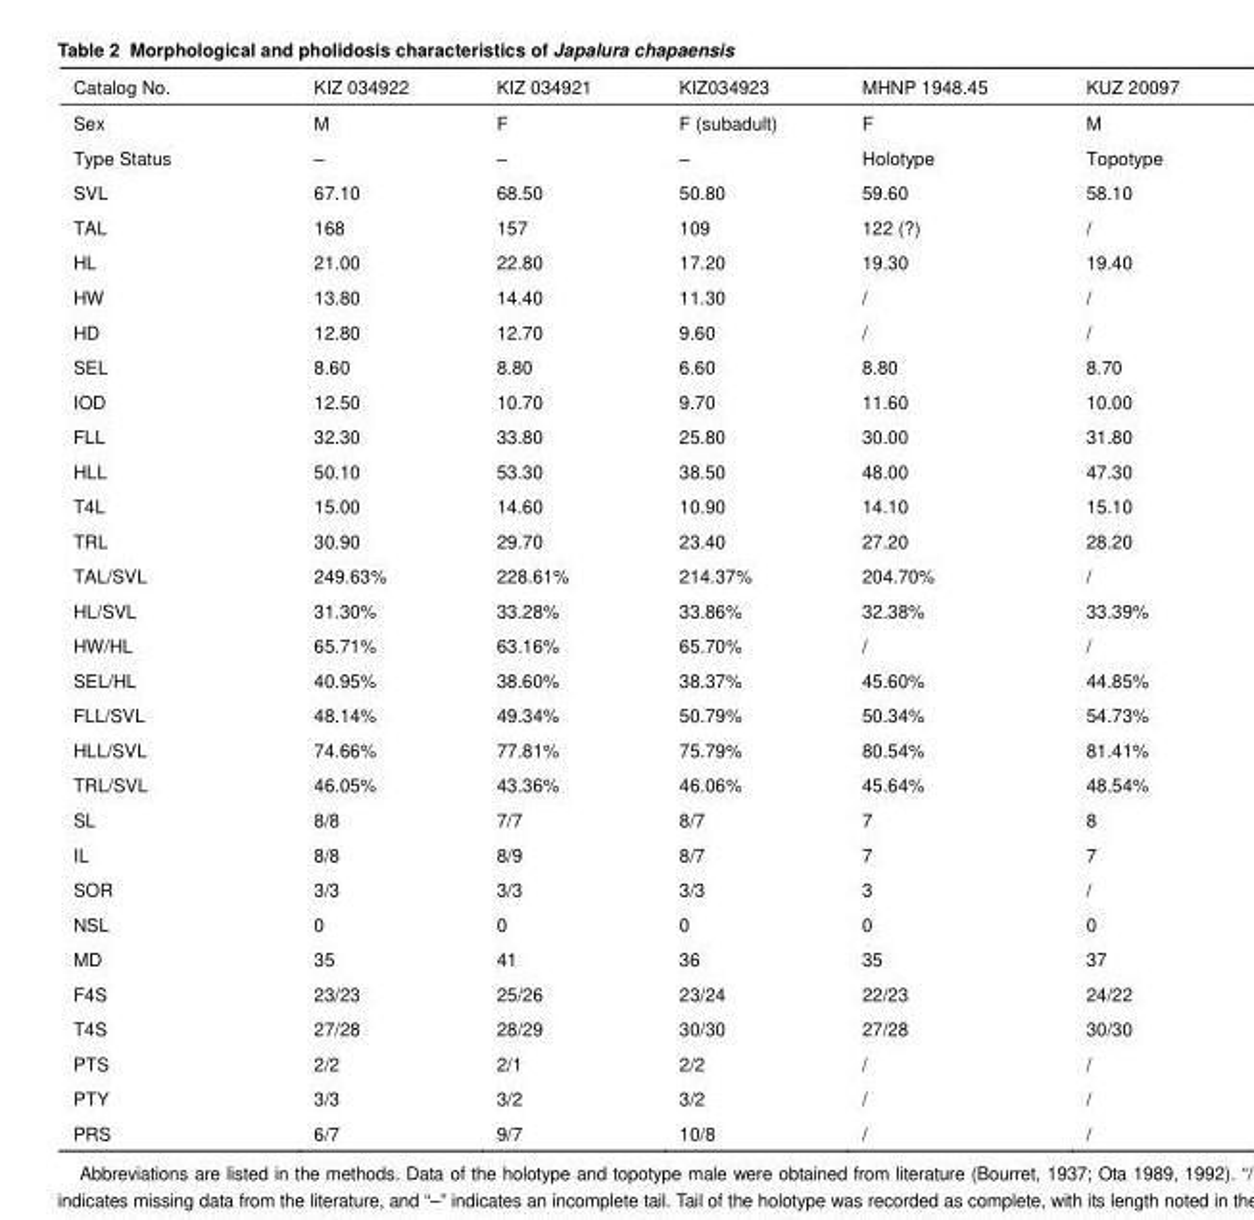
<table><thead><tr><td>Catalog No.</td><td>KIZ 034922</td><td>KIZ 034921</td><td>KIZ034923</td><td>MHNP 1948.45</td><td>KUZ 20097</td></tr></thead><tbody><tr><td>Sex</td><td>M</td><td>F</td><td>F (subadult)</td><td>F</td><td>M</td></tr><tr><td>Type Status</td><td>–</td><td>–</td><td>–</td><td>Holotype</td><td>Topotype</td></tr><tr><td>SVL</td><td>67.10</td><td>68.50</td><td>50.80</td><td>59.60</td><td>58.10</td></tr><tr><td>TAL</td><td>168</td><td>157</td><td>109</td><td>122 (?)</td><td>/</td></tr><tr><td>HL</td><td>21.00</td><td>22.80</td><td>17.20</td><td>19.30</td><td>19.40</td></tr><tr><td>HW</td><td>13.80</td><td>14.40</td><td>11.30</td><td>/</td><td>/</td></tr><tr><td>HD</td><td>12.80</td><td>12.70</td><td>9.60</td><td>/</td><td>/</td></tr><tr><td>SEL</td><td>8.60</td><td>8.80</td><td>6.60</td><td>8.80</td><td>8.70</td></tr><tr><td>IOD</td><td>12.50</td><td>10.70</td><td>9.70</td><td>11.60</td><td>10.00</td></tr><tr><td>FLL</td><td>32.30</td><td>33.80</td><td>25.80</td><td>30.00</td><td>31.80</td></tr><tr><td>HLL</td><td>50.10</td><td>53.30</td><td>38.50</td><td>48.00</td><td>47.30</td></tr><tr><td>T4L</td><td>15.00</td><td>14.60</td><td>10.90</td><td>14.10</td><td>15.10</td></tr><tr><td>TRL</td><td>30.90</td><td>29.70</td><td>23.40</td><td>27.20</td><td>28.20</td></tr><tr><td>TAL/SVL</td><td>249.63%</td><td>228.61%</td><td>214.37%</td><td>204.70%</td><td>/</td></tr><tr><td>HL/SVL</td><td>31.30%</td><td>33.28%</td><td>33.86%</td><td>32.38%</td><td>33.39%</td></tr><tr><td>HW/HL</td><td>65.71%</td><td>63.16%</td><td>65.70%</td><td>/</td><td>/</td></tr><tr><td>SEL/HL</td><td>40.95%</td><td>38.60%</td><td>38.37%</td><td>45.60%</td><td>44.85%</td></tr><tr><td>FLL/SVL</td><td>48.14%</td><td>49.34%</td><td>50.79%</td><td>50.34%</td><td>54.73%</td></tr><tr><td>HLL/SVL</td><td>74.66%</td><td>77.81%</td><td>75.79%</td><td>80.54%</td><td>81.41%</td></tr><tr><td>TRL/SVL</td><td>46.05%</td><td>43.36%</td><td>46.06%</td><td>45.64%</td><td>48.54%</td></tr><tr><td>SL</td><td>8/8</td><td>7/7</td><td>8/7</td><td>7</td><td>8</td></tr><tr><td>IL</td><td>8/8</td><td>8/9</td><td>8/7</td><td>7</td><td>7</td></tr><tr><td>SOR</td><td>3/3</td><td>3/3</td><td>3/3</td><td>3</td><td>/</td></tr><tr><td>NSL</td><td>0</td><td>0</td><td>0</td><td>0</td><td>0</td></tr><tr><td>MD</td><td>35</td><td>41</td><td>36</td><td>35</td><td>37</td></tr><tr><td>F4S</td><td>23/23</td><td>25/26</td><td>23/24</td><td>22/23</td><td>24/22</td></tr><tr><td>T4S</td><td>27/28</td><td>28/29</td><td>30/30</td><td>27/28</td><td>30/30</td></tr><tr><td>PTS</td><td>2/2</td><td>2/1</td><td>2/2</td><td>/</td><td>/</td></tr><tr><td>PTY</td><td>3/3</td><td>3/2</td><td>3/2</td><td>/</td><td>/</td></tr><tr><td>PRS</td><td>6/7</td><td>9/7</td><td>10/8</td><td>/</td><td>/</td></tr></tbody></table>